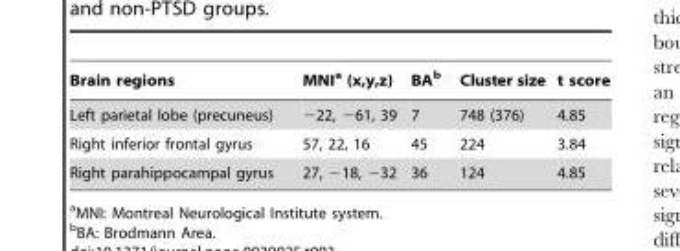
<table><thead><tr><td>Brain regions</td><td>MNI<sup>a</sup> (x,y,z)</td><td>BA<sup>b</sup></td><td>Cluster size</td><td>t score</td></tr></thead><tbody><tr><td>Left parietal lobe (precuneus)</td><td>−22, −61, 39</td><td>7</td><td>748 (376)</td><td>4.85</td></tr><tr><td>Right inferior frontal gyrus</td><td>57, 22, 16</td><td>45</td><td>224</td><td>3.84</td></tr><tr><td>Right parahippocampal gyrus</td><td>27, −18, −32</td><td>36</td><td>124</td><td>4.85</td></tr></tbody></table>